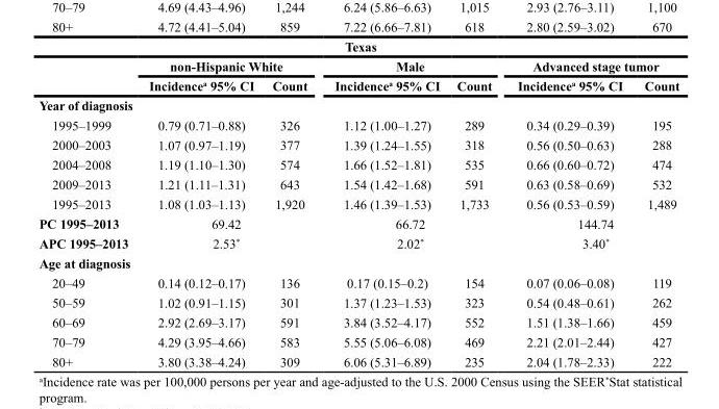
<table><thead><tr><td colspan="7">Texas</td></tr><tr><td rowspan="2"></td><td colspan="2">non-Hispanic White</td><td colspan="2">Male</td><td colspan="2">Advanced stage tumor</td></tr><tr><td>Incidence<sup>a</sup> 95% CI</td><td>Count</td><td>Incidence<sup>a</sup> 95% CI</td><td>Count</td><td>Incidence<sup>a</sup> 95% CI</td><td>Count</td></tr></thead><tbody><tr><td colspan="7">Year of diagnosis</td></tr><tr><td>1995–1999</td><td>0.79 (0.71–0.88)</td><td>326</td><td>1.12 (1.00–1.27)</td><td>289</td><td>0.34 (0.29–0.39)</td><td>195</td></tr><tr><td>2000–2003</td><td>1.07 (0.97–1.19)</td><td>377</td><td>1.39 (1.24–1.55)</td><td>318</td><td>0.56 (0.50–0.63)</td><td>288</td></tr><tr><td>2004–2008</td><td>1.19 (1.10–1.30)</td><td>574</td><td>1.66 (1.52–1.81)</td><td>535</td><td>0.66 (0.60–0.72)</td><td>474</td></tr><tr><td>2009–2013</td><td>1.21 (1.11–1.31)</td><td>643</td><td>1.54 (1.42–1.68)</td><td>591</td><td>0.63 (0.58–0.69)</td><td>532</td></tr><tr><td>1995–2013</td><td>1.08 (1.03–1.13)</td><td>1,920</td><td>1.46 (1.39–1.53)</td><td>1,733</td><td>0.56 (0.53–0.59)</td><td>1,489</td></tr><tr><td>PC 1995–2013</td><td colspan="2">69.42</td><td colspan="2">66.72</td><td colspan="2">144.74</td></tr><tr><td>APC 1995–2013</td><td colspan="2">2.53*</td><td colspan="2">2.02*</td><td colspan="2">3.40*</td></tr><tr><td colspan="7">Age at diagnosis</td></tr><tr><td>20–49</td><td>0.14 (0.12–0.17)</td><td>136</td><td>0.17 (0.15–0.2)</td><td>154</td><td>0.07 (0.06–0.08)</td><td>119</td></tr><tr><td>50–59</td><td>1.02 (0.91–1.15)</td><td>301</td><td>1.37 (1.23–1.53)</td><td>323</td><td>0.54 (0.48–0.61)</td><td>262</td></tr><tr><td>60–69</td><td>2.92 (2.69–3.17)</td><td>591</td><td>3.84 (3.52–4.17)</td><td>552</td><td>1.51 (1.38–1.66)</td><td>459</td></tr><tr><td>70–79</td><td>4.29 (3.95–4.66)</td><td>583</td><td>5.55 (5.06–6.08)</td><td>469</td><td>2.21 (2.01–2.44)</td><td>427</td></tr><tr><td>80+</td><td>3.80 (3.38–4.24)</td><td>309</td><td>6.06 (5.31–6.89)</td><td>235</td><td>2.04 (1.78–2.33)</td><td>222</td></tr></tbody></table>